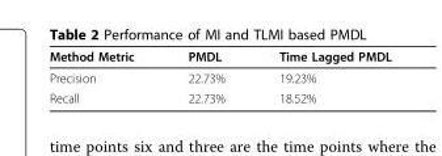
<table><thead><tr><td>Method Metric</td><td>PMDL</td><td>Time Lagged PMDL</td></tr></thead><tbody><tr><td>Precision</td><td>22.73%</td><td>19.23%</td></tr><tr><td>Recall</td><td>22.73%</td><td>18.52%</td></tr></tbody></table>